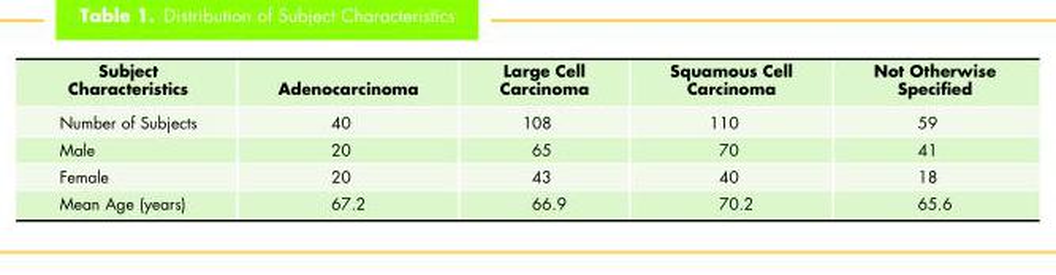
<table><thead><tr><td>Subject Characteristics</td><td>Adenocarcinoma</td><td>Large Cell Carcinoma</td><td>Squamous Cell Carcinoma</td><td>Not Otherwise Specified</td></tr></thead><tbody><tr><td>Number of Subjects</td><td>40</td><td>108</td><td>110</td><td>59</td></tr><tr><td>Male</td><td>20</td><td>65</td><td>70</td><td>41</td></tr><tr><td>Female</td><td>20</td><td>43</td><td>40</td><td>18</td></tr><tr><td>Mean Age (years)</td><td>67.2</td><td>66.9</td><td>70.2</td><td>65.6</td></tr></tbody></table>